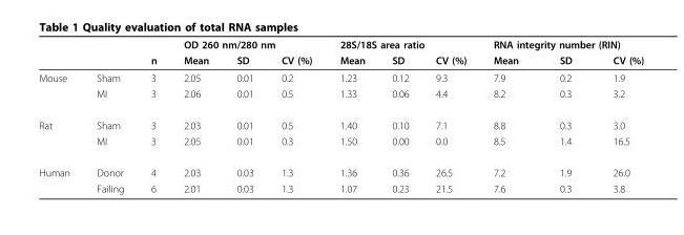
<table><thead><tr><td rowspan="2"></td><td rowspan="2"></td><td rowspan="2">n</td><td colspan="3">OD 260 nm/280 nm</td><td colspan="3">28S/18S area ratio</td><td colspan="3">RNA integrity number (RIN)</td></tr><tr><td>Mean</td><td>SD</td><td>CV (%)</td><td>Mean</td><td>SD</td><td>CV (%)</td><td>Mean</td><td>SD</td><td>CV (%)</td></tr></thead><tbody><tr><td rowspan="2">Mouse</td><td>Sham</td><td>3</td><td>2.05</td><td>0.01</td><td>0.2</td><td>1.23</td><td>0.12</td><td>9.3</td><td>7.9</td><td>0.2</td><td>1.9</td></tr><tr><td>MI</td><td>3</td><td>2.06</td><td>0.01</td><td>0.5</td><td>1.33</td><td>0.06</td><td>4.4</td><td>8.2</td><td>0.3</td><td>3.2</td></tr><tr><td rowspan="2">Rat</td><td>Sham</td><td>3</td><td>2.03</td><td>0.01</td><td>0.5</td><td>1.40</td><td>0.10</td><td>7.1</td><td>8.8</td><td>0.3</td><td>3.0</td></tr><tr><td>MI</td><td>3</td><td>2.05</td><td>0.01</td><td>0.3</td><td>1.50</td><td>0.00</td><td>0.0</td><td>8.5</td><td>1.4</td><td>16.5</td></tr><tr><td rowspan="2">Human</td><td>Donor</td><td>4</td><td>2.03</td><td>0.03</td><td>1.3</td><td>1.36</td><td>0.36</td><td>26.5</td><td>7.2</td><td>1.9</td><td>26.0</td></tr><tr><td>Failing</td><td>6</td><td>2.01</td><td>0.03</td><td>1.3</td><td>1.07</td><td>0.23</td><td>21.5</td><td>7.6</td><td>0.3</td><td>3.8</td></tr></tbody></table>